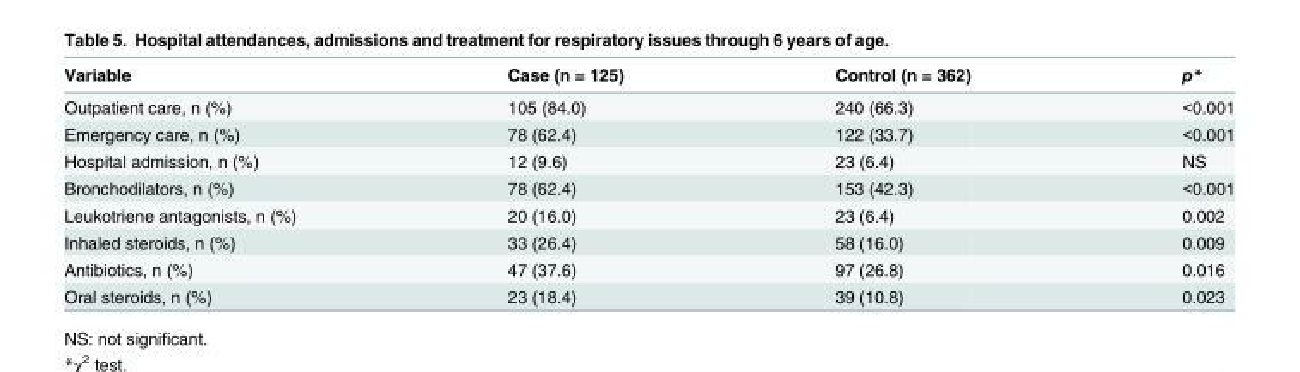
<table><thead><tr><td>Variable</td><td>Case (n = 125)</td><td>Control (n = 362)</td><td>p*</td></tr></thead><tbody><tr><td>Outpatient care, n (%)</td><td>105 (84.0)</td><td>240 (66.3)</td><td>&lt;0.001</td></tr><tr><td>Emergency care, n (%)</td><td>78 (62.4)</td><td>122 (33.7)</td><td>&lt;0.001</td></tr><tr><td>Hospital admission, n (%)</td><td>12 (9.6)</td><td>23 (6.4)</td><td>NS</td></tr><tr><td>Bronchodilators, n (%)</td><td>78 (62.4)</td><td>153 (42.3)</td><td>&lt;0.001</td></tr><tr><td>Leukotriene antagonists, n (%)</td><td>20 (16.0)</td><td>23 (6.4)</td><td>0.002</td></tr><tr><td>Inhaled steroids, n (%)</td><td>33 (26.4)</td><td>58 (16.0)</td><td>0.009</td></tr><tr><td>Antibiotics, n (%)</td><td>47 (37.6)</td><td>97 (26.8)</td><td>0.016</td></tr><tr><td>Oral steroids, n (%)</td><td>23 (18.4)</td><td>39 (10.8)</td><td>0.023</td></tr></tbody></table>